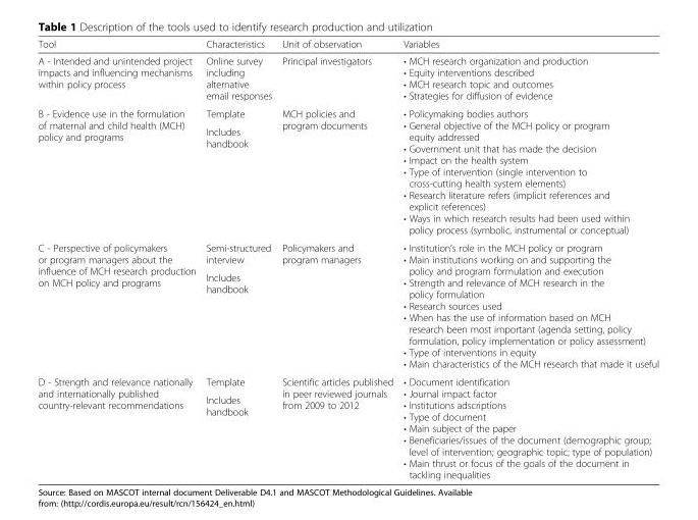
<table><thead><tr><td>Tool</td><td>Characteristics</td><td>Unit of observation</td><td>Variables</td></tr></thead><tbody><tr><td>A - Intended and unintended project impacts and influencing mechanisms within policy process</td><td>Online survey including alternative email responses</td><td>Principal investigators</td><td>• MCH research organization and production • Equity interventions described • MCH research topic and outcomes • Strategies for diffusion of evidence</td></tr><tr><td rowspan="2">B - Evidence use in the formulation of maternal and child health (MCH) policy and programs</td><td>Template</td><td rowspan="2">MCH policies and program documents</td><td rowspan="2">• Policymaking bodies authors • General objective of the MCH policy or program equity addressed • Government unit that has made the decision • Impact on the health system • Type of intervention (single intervention to cross-cutting health system elements) • Research literature refers (implicit references and explicit references) • Ways in which research results had been used within policy process (symbolic, instrumental or conceptual)</td></tr><tr><td>Includes handbook</td></tr><tr><td rowspan="2">C - Perspective of policymakers or program managers about the influence of MCH research production on MCH policy and programs</td><td>Semi-structured interview</td><td rowspan="2">Policymakers and program managers</td><td rowspan="2">• Institution’s role in the MCH policy or program • Main institutions working on and supporting the policy and program formulation and execution • Strength and relevance of MCH research in the policy formulation • Research sources used • When has the use of information based on MCH research been most important (agenda setting, policy formulation, policy implementation or policy assessment) • Type of interventions in equity • Main characteristics of the MCH research that made it useful</td></tr><tr><td>Includes handbook</td></tr><tr><td rowspan="2">D - Strength and relevance nationally and internationally published country-relevant recommendations</td><td>Template</td><td rowspan="2">Scientific articles published in peer reviewed journals from 2009 to 2012</td><td rowspan="2">• Document identification • Journal impact factor • Institutions adscriptions • Type of document • Main subject of the paper • Beneficiaries/issues of the document (demographic group; level of intervention; geographic topic; type of population) • Main thrust or focus of the goals of the document in tackling inequalities</td></tr><tr><td>Includes handbook</td></tr></tbody></table>